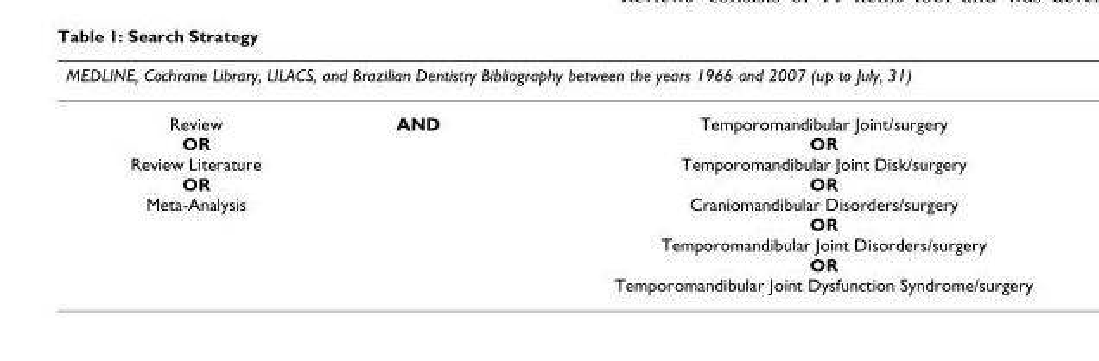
<table><thead><tr><td colspan="3">MEDLINE, Cochrane Library, LILACS, and Brazilian Dentistry Bibliography between the years 1966 and 2007 (up to July, 31)</td></tr><tr><td>Review OR Review Literature OR Meta-Analysis</td><td>AND</td><td>Temporomandibular Joint/surgery OR Temporomandibular Joint Disk/surgery OR Craniomandibular Disorders/surgery OR Temporomandibular Joint Disorders/surgery OR Temporomandibular Joint Dysfunction Syndrome/surgery</td></tr></thead><tbody></tbody></table>